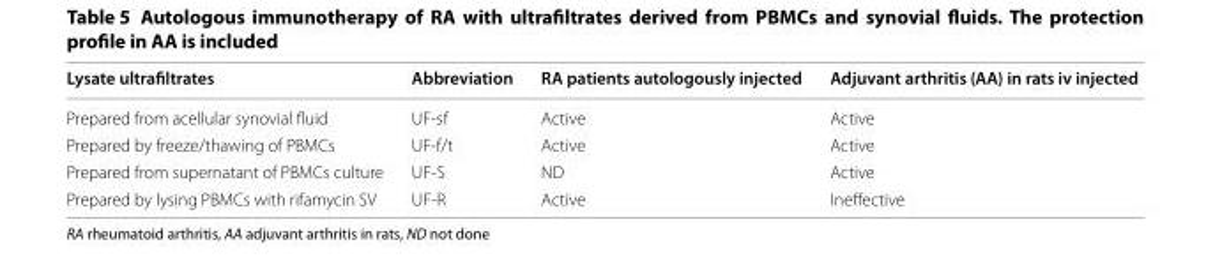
<table><thead><tr><td>Lysate ultrafiltrates</td><td>Abbreviation</td><td>RA patients autologously injected</td><td>Adjuvant arthritis (AA) in rats iv injected</td></tr></thead><tbody><tr><td>Prepared from acellular synovial fluid</td><td>UF-sf</td><td>Active</td><td>Active</td></tr><tr><td>Prepared by freeze/thawing of PBMCs</td><td>UF-f/t</td><td>Active</td><td>Active</td></tr><tr><td>Prepared from supernatant of PBMCs culture</td><td>UF-S</td><td>ND</td><td>Active</td></tr><tr><td>Prepared by lysing PBMCs with rifamycin SV</td><td>UF-R</td><td>Active</td><td>Ineffective</td></tr></tbody></table>